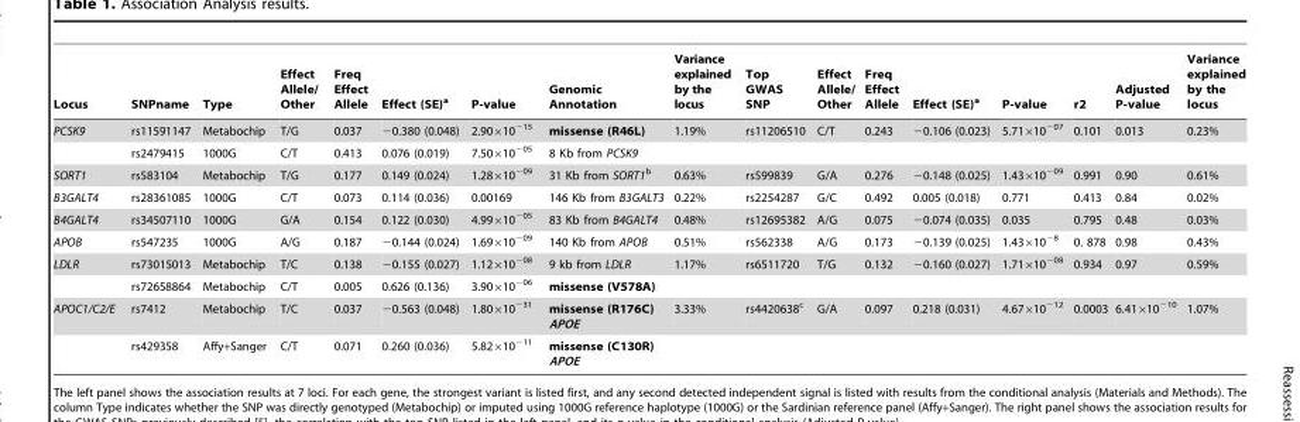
<table><thead><tr><td>Locus</td><td>SNPname</td><td>Type</td><td>Effect Allele/ Other</td><td>Freq Effect Allele</td><td>Effect (SE)<sup>a</sup></td><td>P-value</td><td>Genomic Annotation</td><td>Variance explained by the locus</td><td>Top GWAS SNP</td><td>Effect Allele/ Other</td><td>Freq Effect Allele</td><td>Effect (SE)<sup>a</sup></td><td>P-value</td><td>r2</td><td>Adjusted P-value</td><td>Variance explained by the locus</td></tr></thead><tbody><tr><td rowspan="2">PCSK9</td><td>rs11591147</td><td>Metabochip</td><td>T/G</td><td>0.037</td><td>−0.380 (0.048)</td><td>2.90×10<sup>−15</sup></td><td>missense (R46L)</td><td>1.19%</td><td>rs11206510</td><td>C/T</td><td>0.243</td><td>−0.106 (0.023)</td><td>5.71×10<sup>−07</sup></td><td>0.101</td><td>0.013</td><td>0.23%</td></tr><tr><td>rs2479415</td><td>1000G</td><td>C/T</td><td>0.413</td><td>0.076 (0.019)</td><td>7.50×10<sup>−05</sup></td><td>8 Kb from PCSK9</td><td></td><td></td><td></td><td></td><td></td><td></td><td></td><td></td><td></td></tr><tr><td>SORT1</td><td>rs583104</td><td>Metabochip</td><td>T/G</td><td>0.177</td><td>0.149 (0.024)</td><td>1.28×10<sup>−09</sup></td><td>31 Kb from SORT1b</td><td>0.63%</td><td>rs599839</td><td>G/A</td><td>0.276</td><td>−0.148 (0.025)</td><td>1.43×10<sup>−09</sup></td><td>0.991</td><td>0.90</td><td>0.61%</td></tr><tr><td>B3GALT4</td><td>rs28361085</td><td>1000G</td><td>C/T</td><td>0.073</td><td>0.114 (0.036)</td><td>0.00169</td><td>146 Kb from B3GALT3</td><td>0.22%</td><td>rs2254287</td><td>G/C</td><td>0.492</td><td>0.005 (0.018)</td><td>0.771</td><td>0.413</td><td>0.84</td><td>0.02%</td></tr><tr><td>B4GALT4</td><td>rs34507110</td><td>1000G</td><td>G/A</td><td>0.154</td><td>0.122 (0.030)</td><td>4.99×10<sup>−05</sup></td><td>83 Kb from B4GALT4</td><td>0.48%</td><td>rs12695382</td><td>A/G</td><td>0.075</td><td>−0.074 (0.035)</td><td>0.035</td><td>0.795</td><td>0.48</td><td>0.03%</td></tr><tr><td>APOB</td><td>rs547235</td><td>1000G</td><td>A/G</td><td>0.187</td><td>−0.144 (0.024)</td><td>1.69×10<sup>−09</sup></td><td>140 Kb from APOB</td><td>0.51%</td><td>rs562338</td><td>A/G</td><td>0.173</td><td>−0.139 (0.025)</td><td>1.43×10<sup>−8</sup></td><td>0. 878</td><td>0.98</td><td>0.43%</td></tr><tr><td rowspan="2">LDLR</td><td>rs73015013</td><td>Metabochip</td><td>T/C</td><td>0.138</td><td>−0.155 (0.027)</td><td>1.12×10<sup>−08</sup></td><td>9 kb from LDLR</td><td>1.17%</td><td>rs6511720</td><td>T/G</td><td>0.132</td><td>−0.160 (0.027)</td><td>1.71×10<sup>−08</sup></td><td>0.934</td><td>0.97</td><td>0.59%</td></tr><tr><td>rs72658864</td><td>Metabochip</td><td>C/T</td><td>0.005</td><td>0.626 (0.136)</td><td>3.90×10<sup>−06</sup></td><td>missense (V578A)</td><td></td><td></td><td></td><td></td><td></td><td></td><td></td><td></td><td></td></tr><tr><td rowspan="2">APOC1/C2/E</td><td>rs7412</td><td>Metabochip</td><td>T/C</td><td>0.037</td><td>−0.563 (0.048)</td><td>1.80×10<sup>−31</sup></td><td>missense (R176C) APOE</td><td>3.33%</td><td>rs4420638<sup>c</sup></td><td>G/A</td><td>0.097</td><td>0.218 (0.031)</td><td>4.67×10<sup>−12</sup></td><td>0.0003</td><td>6.41×10<sup>−10</sup></td><td>1.07%</td></tr><tr><td>rs429358</td><td>Affy+Sanger</td><td>C/T</td><td>0.071</td><td>0.260 (0.036)</td><td>5.82×10<sup>−11</sup></td><td>missense (C130R) APOE</td><td></td><td></td><td></td><td></td><td></td><td></td><td></td><td></td><td></td></tr></tbody></table>